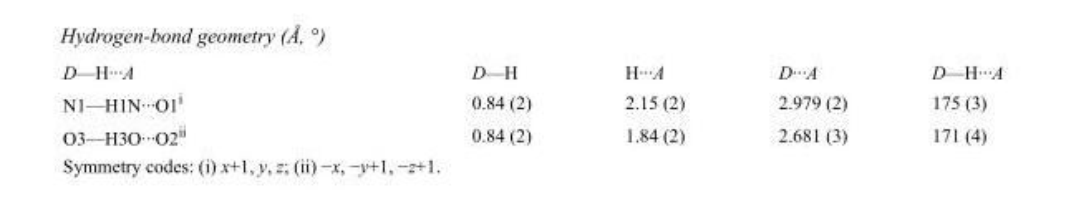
<table><tbody><tr><td>D—H···A</td><td>D—H</td><td>H···A</td><td>D···A</td><td>D—H···A</td></tr><tr><td>N1—H1N···O1<sup>i</sup></td><td>0.84 (2)</td><td>2.15 (2)</td><td>2.979 (2)</td><td>175 (3)</td></tr><tr><td>O3—H3O···O2<sup>ii</sup></td><td>0.84 (2)</td><td>1.84 (2)</td><td>2.681 (3)</td><td>171 (4)</td></tr></tbody></table>